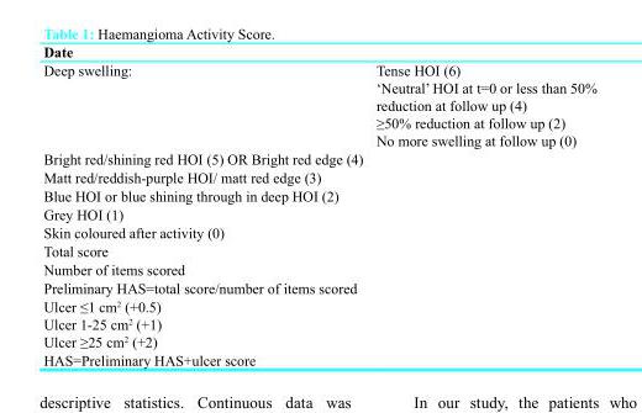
<table><thead><tr><td colspan="2">Date</td></tr><tr><td>Deep swelling:</td><td>Tense HOI (6) ‘Neutral’ HOI at t=0 or less than 50% reduction at follow up (4) ≥50% reduction at follow up (2) No more swelling at follow up (0)</td></tr></thead><tbody><tr><td colspan="2">Bright red/shining red HOI (5) OR Bright red edge (4)</td></tr><tr><td colspan="2">Matt red/reddish-purple HOI/ matt red edge (3)</td></tr><tr><td colspan="2">Blue HOI or blue shining through in deep HOI (2)</td></tr><tr><td colspan="2">Grey HOI (1)</td></tr><tr><td colspan="2">Skin coloured after activity (0)</td></tr><tr><td colspan="2">Total score</td></tr><tr><td colspan="2">Number of items scored</td></tr><tr><td colspan="2">Preliminary HAS=total score/number of items scored</td></tr><tr><td colspan="2">Ulcer ≤1 cm<sup>2</sup> (+0.5) Ulcer 1-25 cm<sup>2</sup> (+1) Ulcer ≥25 cm<sup>2</sup> (+2)</td></tr><tr><td colspan="2">HAS=Preliminary HAS+ulcer score</td></tr></tbody></table>